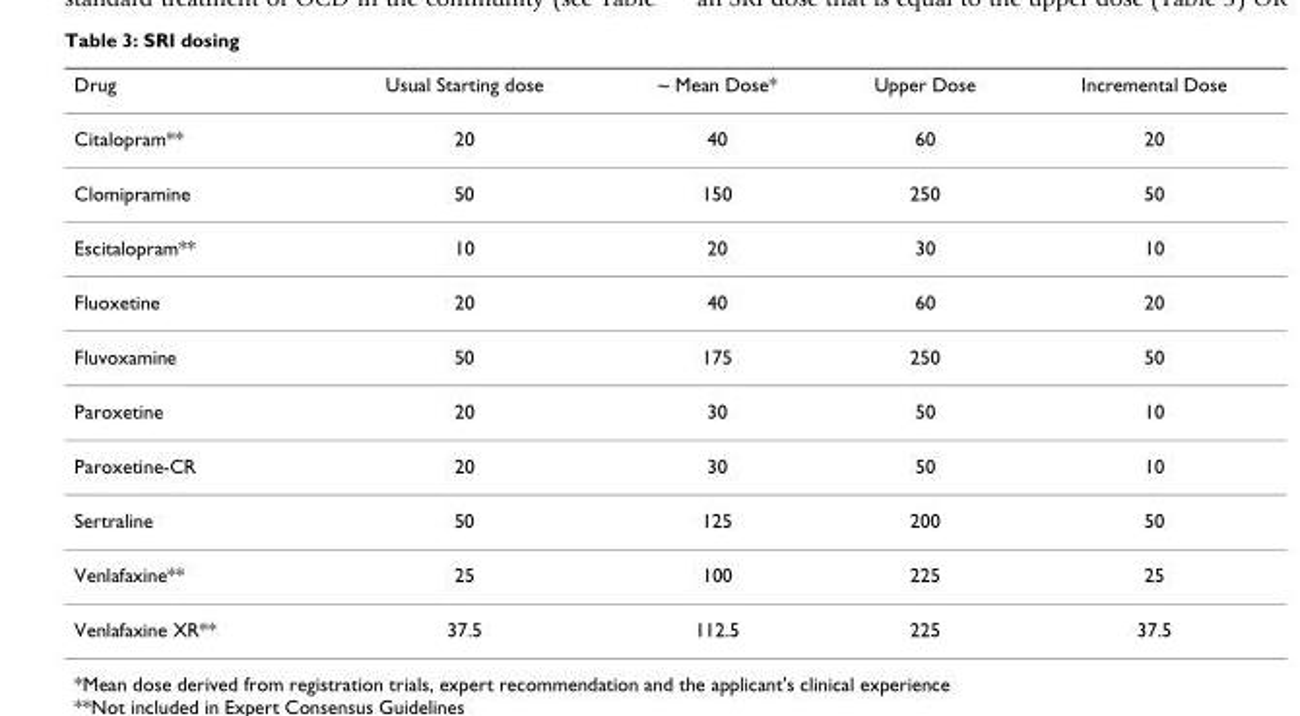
<table><thead><tr><td>Drug</td><td>Usual Starting dose</td><td>~ Mean Dose*</td><td>Upper Dose</td><td>Incremental Dose</td></tr></thead><tbody><tr><td>Citalopram**</td><td>20</td><td>40</td><td>60</td><td>20</td></tr><tr><td>Clomipramine</td><td>50</td><td>150</td><td>250</td><td>50</td></tr><tr><td>Escitalopram**</td><td>10</td><td>20</td><td>30</td><td>10</td></tr><tr><td>Fluoxetine</td><td>20</td><td>40</td><td>60</td><td>20</td></tr><tr><td>Fluvoxamine</td><td>50</td><td>175</td><td>250</td><td>50</td></tr><tr><td>Paroxetine</td><td>20</td><td>30</td><td>50</td><td>10</td></tr><tr><td>Paroxetine-CR</td><td>20</td><td>30</td><td>50</td><td>10</td></tr><tr><td>Sertraline</td><td>50</td><td>125</td><td>200</td><td>50</td></tr><tr><td>Venlafaxine**</td><td>25</td><td>100</td><td>225</td><td>25</td></tr><tr><td>Venlafaxine XR**</td><td>37.5</td><td>112.5</td><td>225</td><td>37.5</td></tr></tbody></table>